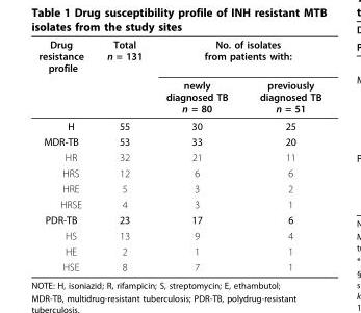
<table><thead><tr><td rowspan="2">Drug resistance profile</td><td rowspan="2">Total n = 131</td><td colspan="2">No. of isolates from patients with:</td></tr><tr><td>newly diagnosed TB n = 80</td><td>previously diagnosed TB n = 51</td></tr></thead><tbody><tr><td>H</td><td>55</td><td>30</td><td>25</td></tr><tr><td>MDR-TB</td><td>53</td><td>33</td><td>20</td></tr><tr><td>HR</td><td>32</td><td>21</td><td>11</td></tr><tr><td>HRS</td><td>12</td><td>6</td><td>6</td></tr><tr><td>HRE</td><td>5</td><td>3</td><td>2</td></tr><tr><td>HRSE</td><td>4</td><td>3</td><td>1</td></tr><tr><td>PDR-TB</td><td>23</td><td>17</td><td>6</td></tr><tr><td>HS</td><td>13</td><td>9</td><td>4</td></tr><tr><td>HE</td><td>2</td><td>1</td><td>1</td></tr><tr><td>HSE</td><td>8</td><td>7</td><td>1</td></tr></tbody></table>